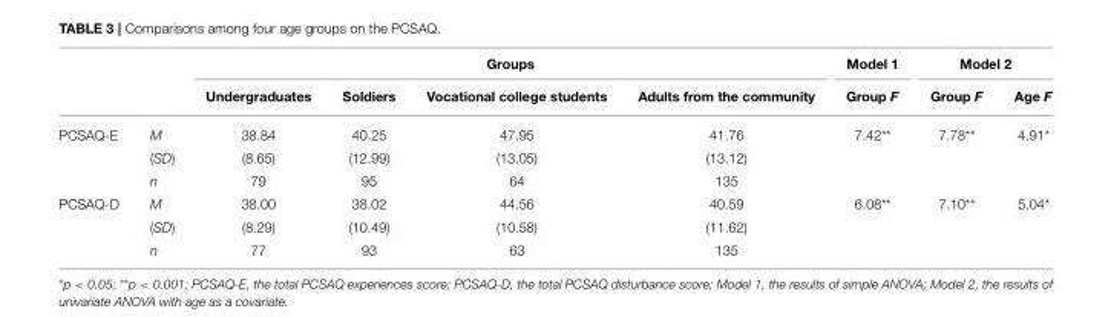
<table><thead><tr><td rowspan="2"></td><td rowspan="2"></td><td colspan="4">Groups</td><td rowspan="2">Model 1 Group F</td><td colspan="2">Model 2</td></tr><tr><td>Undergraduates</td><td>Soldiers</td><td>Vocational college students</td><td>Adults from the community</td><td>Group F</td><td>Age F</td></tr></thead><tbody><tr><td rowspan="3">PCSAQ-E</td><td>M</td><td>38.84</td><td>40.25</td><td>47.95</td><td>41.76</td><td>7.42**</td><td>7.78**</td><td>4.91*</td></tr><tr><td>(SD)</td><td>(8.65)</td><td>(12.99)</td><td>(13.05)</td><td>(13.12)</td><td></td><td></td><td></td></tr><tr><td>n</td><td>79</td><td>95</td><td>64</td><td>135</td><td></td><td></td><td></td></tr><tr><td rowspan="3">PCSAQ-D</td><td>M</td><td>38.00</td><td>38.02</td><td>44.56</td><td>40.59</td><td>6.08**</td><td>7.10**</td><td>5.04*</td></tr><tr><td>(SD)</td><td>(8.29)</td><td>(10.49)</td><td>(10.58)</td><td>(11.62)</td><td></td><td></td><td></td></tr><tr><td>n</td><td>77</td><td>93</td><td>63</td><td>135</td><td></td><td></td><td></td></tr></tbody></table>